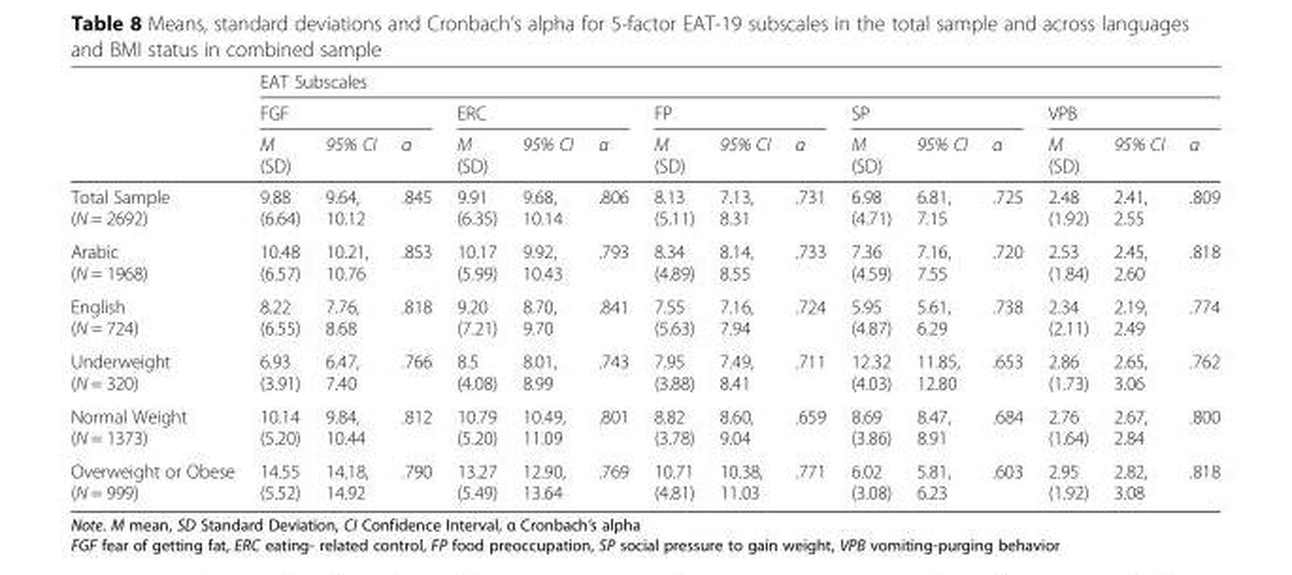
<table><thead><tr><td rowspan="3"></td><td colspan="15">EAT Subscales</td></tr><tr><td colspan="3">FGF</td><td colspan="3">ERC</td><td colspan="3">FP</td><td colspan="3">SP</td><td colspan="3">VPB</td></tr><tr><td>M (SD)</td><td>95% CI</td><td>α</td><td>M (SD)</td><td>95% CI</td><td>α</td><td>M (SD)</td><td>95% CI</td><td>α</td><td>M (SD)</td><td>95% CI</td><td>α</td><td>M (SD)</td><td>95% CI</td><td>α</td></tr></thead><tbody><tr><td>Total Sample (N = 2692)</td><td>9.88 (6.64)</td><td>9.64, 10.12</td><td>.845</td><td>9.91 (6.35)</td><td>9.68, 10.14</td><td>.806</td><td>8.13 (5.11)</td><td>7.13, 8.31</td><td>.731</td><td>6.98 (4.71)</td><td>6.81, 7.15</td><td>.725</td><td>2.48 (1.92)</td><td>2.41, 2.55</td><td>.809</td></tr><tr><td>Arabic (N = 1968)</td><td>10.48 (6.57)</td><td>10.21, 10.76</td><td>.853</td><td>10.17 (5.99)</td><td>9.92, 10.43</td><td>.793</td><td>8.34 (4.89)</td><td>8.14, 8.55</td><td>.733</td><td>7.36 (4.59)</td><td>7.16, 7.55</td><td>.720</td><td>2.53 (1.84)</td><td>2.45, 2.60</td><td>.818</td></tr><tr><td>English (N = 724)</td><td>8.22 (6.55)</td><td>7.76, 8.68</td><td>.818</td><td>9.20 (7.21)</td><td>8.70, 9.70</td><td>.841</td><td>7.55 (5.63)</td><td>7.16, 7.94</td><td>.724</td><td>5.95 (4.87)</td><td>5.61, 6.29</td><td>.738</td><td>2.34 (2.11)</td><td>2.19, 2.49</td><td>.774</td></tr><tr><td>Underweight (N = 320)</td><td>6.93 (3.91)</td><td>6.47, 7.40</td><td>.766</td><td>8.5 (4.08)</td><td>8.01, 8.99</td><td>.743</td><td>7.95 (3.88)</td><td>7.49, 8.41</td><td>.711</td><td>12.32 (4.03)</td><td>11.85, 12.80</td><td>.653</td><td>2.86 (1.73)</td><td>2.65, 3.06</td><td>.762</td></tr><tr><td>Normal Weight (N = 1373)</td><td>10.14 (5.20)</td><td>9.84, 10.44</td><td>.812</td><td>10.79 (5.20)</td><td>10.49, 11.09</td><td>.801</td><td>8.82 (3.78)</td><td>8.60, 9.04</td><td>.659</td><td>8.69 (3.86)</td><td>8.47, 8.91</td><td>.684</td><td>2.76 (1.64)</td><td>2.67, 2.84</td><td>.800</td></tr><tr><td>Overweight or Obese (N = 999)</td><td>14.55 (5.52)</td><td>14.18, 14.92</td><td>.790</td><td>13.27 (5.49)</td><td>12.90, 13.64</td><td>.769</td><td>10.71 (4.81)</td><td>10.38, 11.03</td><td>.771</td><td>6.02 (3.08)</td><td>5.81, 6.23</td><td>.603</td><td>2.95 (1.92)</td><td>2.82, 3.08</td><td>.818</td></tr></tbody></table>